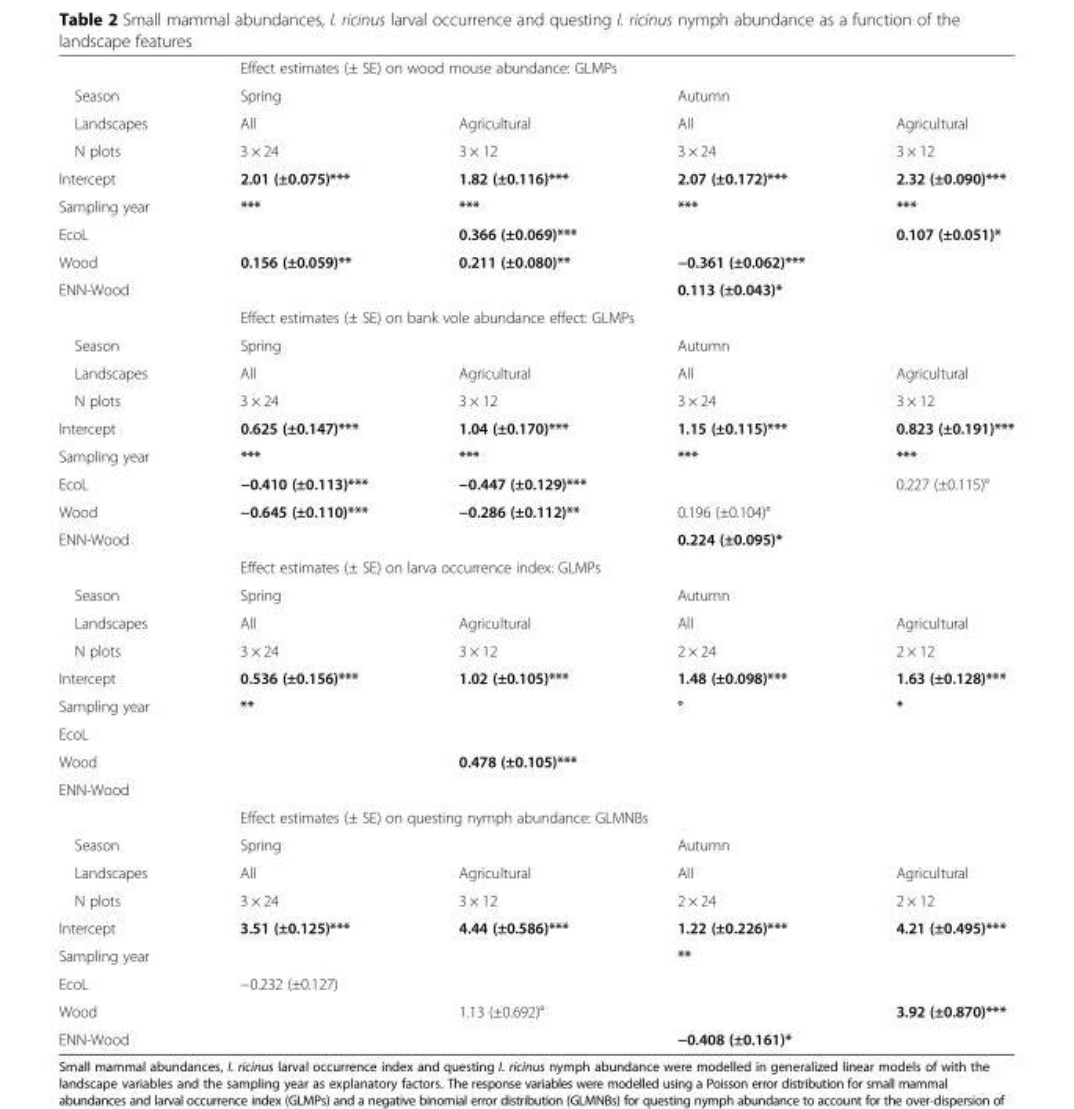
<table><thead><tr><td rowspan="3">Season Landscapes</td><td colspan="4">Effect estimates (± SE) on wood mouse abundance: GLMPs</td></tr><tr><td colspan="2">Spring</td><td colspan="2">Autumn</td></tr><tr><td>All</td><td>Agricultural</td><td>All</td><td>Agricultural</td></tr></thead><tbody><tr><td>N plots</td><td>3 × 24</td><td>3 × 12</td><td>3 × 24</td><td>3 × 12</td></tr><tr><td>Intercept</td><td>2.01 (±0.075)***</td><td>1.82 (±0.116)***</td><td>2.07 (±0.172)***</td><td>2.32 (±0.090)***</td></tr><tr><td>Sampling year</td><td>***</td><td>***</td><td>***</td><td>***</td></tr><tr><td>EcoL</td><td></td><td>0.366 (±0.069)***</td><td></td><td>0.107 (±0.051)*</td></tr><tr><td>Wood</td><td>0.156 (±0.059)**</td><td>0.211 (±0.080)**</td><td>−0.361 (±0.062)***</td><td></td></tr><tr><td rowspan="2">ENN-Wood</td><td></td><td></td><td>0.113 (±0.043)*</td><td></td></tr><tr><td colspan="4">Effect estimates (± SE) on bank vole abundance effect: GLMPs</td></tr><tr><td>Season</td><td colspan="2">Spring</td><td colspan="2">Autumn</td></tr><tr><td>Landscapes</td><td>All</td><td>Agricultural</td><td>All</td><td>Agricultural</td></tr><tr><td>N plots</td><td>3 × 24</td><td>3 × 12</td><td>3 × 24</td><td>3 × 12</td></tr><tr><td>Intercept</td><td>0.625 (±0.147)***</td><td>1.04 (±0.170)***</td><td>1.15 (±0.115)***</td><td>0.823 (±0.191)***</td></tr><tr><td>Sampling year</td><td>***</td><td>***</td><td>***</td><td>***</td></tr><tr><td>EcoL</td><td>−0.410 (±0.113)***</td><td>−0.447 (±0.129)***</td><td></td><td>0.227 (±0.115)°</td></tr><tr><td>Wood</td><td>−0.645 (±0.110)***</td><td>−0.286 (±0.112)**</td><td>0.196 (±0.104)°</td><td></td></tr><tr><td rowspan="2">ENN-Wood</td><td></td><td></td><td>0.224 (±0.095)*</td><td></td></tr><tr><td colspan="4">Effect estimates (± SE) on larva occurrence index: GLMPs</td></tr><tr><td>Season</td><td colspan="2">Spring</td><td colspan="2">Autumn</td></tr><tr><td>Landscapes</td><td>All</td><td>Agricultural</td><td>All</td><td>Agricultural</td></tr><tr><td>N plots</td><td>3 × 24</td><td>3 × 12</td><td>2 × 24</td><td>2 × 12</td></tr><tr><td>Intercept</td><td>0.536 (±0.156)***</td><td>1.02 (±0.105)***</td><td>1.48 (±0.098)***</td><td>1.63 (±0.128)***</td></tr><tr><td>Sampling year</td><td>**</td><td></td><td>°</td><td>*</td></tr><tr><td colspan="5">EcoL</td></tr><tr><td>Wood</td><td></td><td>0.478 (±0.105)***</td><td></td><td></td></tr><tr><td colspan="5">ENN-Wood</td></tr><tr><td></td><td colspan="4">Effect estimates (± SE) on questing nymph abundance: GLMNBs</td></tr><tr><td>Season</td><td colspan="2">Spring</td><td colspan="2">Autumn</td></tr><tr><td>Landscapes</td><td>All</td><td>Agricultural</td><td>All</td><td>Agricultural</td></tr><tr><td>N plots</td><td>3 × 24</td><td>3 × 12</td><td>2 × 24</td><td>2 × 12</td></tr><tr><td>Intercept</td><td>3.51 (±0.125)***</td><td>4.44 (±0.586)***</td><td>1.22 (±0.226)***</td><td>4.21 (±0.495)***</td></tr><tr><td>Sampling year</td><td></td><td></td><td>**</td><td></td></tr><tr><td>EcoL</td><td>−0.232 (±0.127)</td><td></td><td></td><td></td></tr><tr><td>Wood</td><td></td><td>1.13 (±0.692)°</td><td></td><td>3.92 (±0.870)***</td></tr><tr><td>ENN-Wood</td><td></td><td></td><td>−0.408 (±0.161)*</td><td></td></tr></tbody></table>